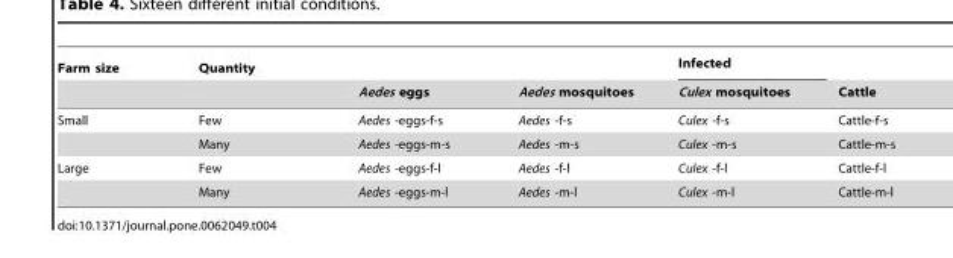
<table><thead><tr><td rowspan="2">Farm size</td><td rowspan="2">Quantity</td><td rowspan="2">Aedes eggs</td><td rowspan="2">Aedes mosquitoes</td><td rowspan="2">Infected Culex mosquitoes</td><td rowspan="2">Cattle</td></tr><tr></tr></thead><tbody><tr><td rowspan="2">Small</td><td>Few</td><td>Aedes -eggs-f-s</td><td>Aedes -f-s</td><td>Culex -f-s</td><td>Cattle-f-s</td></tr><tr><td>Many</td><td>Aedes -eggs-m-s</td><td>Aedes -m-s</td><td>Culex -m-s</td><td>Cattle-m-s</td></tr><tr><td rowspan="2">Large</td><td>Few</td><td>Aedes -eggs-f-l</td><td>Aedes -f-l</td><td>Culex -f-l</td><td>Cattle-f-l</td></tr><tr><td>Many</td><td>Aedes -eggs-m-l</td><td>Aedes -m-l</td><td>Culex -m-l</td><td>Cattle-m-l</td></tr></tbody></table>